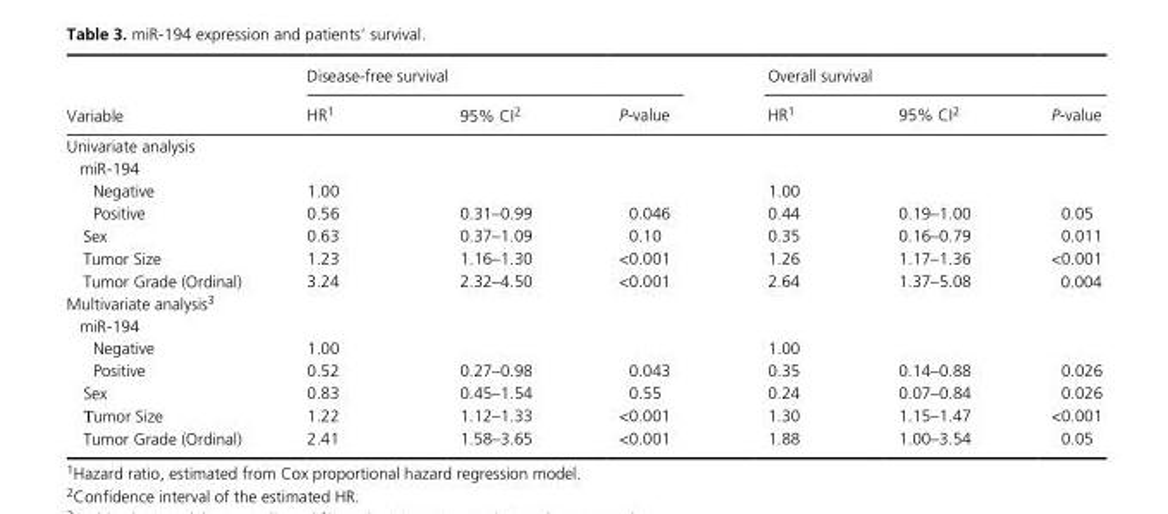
<table><thead><tr><td rowspan="2">Variable</td><td colspan="3">Disease- free survival</td><td colspan="3">Overall survival</td></tr><tr><td>HR1</td><td>95% CI2</td><td>P- value</td><td>HR1</td><td>95% CI2</td><td>P- value</td></tr></thead><tbody><tr><td colspan="7">Univariate analysis</td></tr><tr><td colspan="7">miR- 194</td></tr><tr><td>Negative</td><td>1.00</td><td></td><td></td><td>1.00</td><td></td><td></td></tr><tr><td>Positive</td><td>0.56</td><td>0.31–0.99</td><td>0.046</td><td>0.44</td><td>0.19–1.00</td><td>0.05</td></tr><tr><td>Sex</td><td>0.63</td><td>0.37–1.09</td><td>0.10</td><td>0.35</td><td>0.16–0.79</td><td>0.011</td></tr><tr><td>Tumor Size</td><td>1.23</td><td>1.16–1.30</td><td>&lt;0.001</td><td>1.26</td><td>1.17–1.36</td><td>&lt;0.001</td></tr><tr><td>Tumor Grade (Ordinal)</td><td>3.24</td><td>2.32–4.50</td><td>&lt;0.001</td><td>2.64</td><td>1.37–5.08</td><td>0.004</td></tr><tr><td colspan="7">Multivariate analysis3</td></tr><tr><td colspan="7">miR- 194</td></tr><tr><td>Negative</td><td>1.00</td><td></td><td></td><td>1.00</td><td></td><td></td></tr><tr><td>Positive</td><td>0.52</td><td>0.27–0.98</td><td>0.043</td><td>0.35</td><td>0.14–0.88</td><td>0.026</td></tr><tr><td>Sex</td><td>0.83</td><td>0.45–1.54</td><td>0.55</td><td>0.24</td><td>0.07–0.84</td><td>0.026</td></tr><tr><td>Τumor Size</td><td>1.22</td><td>1.12–1.33</td><td>&lt;0.001</td><td>1.30</td><td>1.15–1.47</td><td>&lt;0.001</td></tr><tr><td>Tumor Grade (Ordinal)</td><td>2.41</td><td>1.58–3.65</td><td>&lt;0.001</td><td>1.88</td><td>1.00–3.54</td><td>0.05</td></tr></tbody></table>